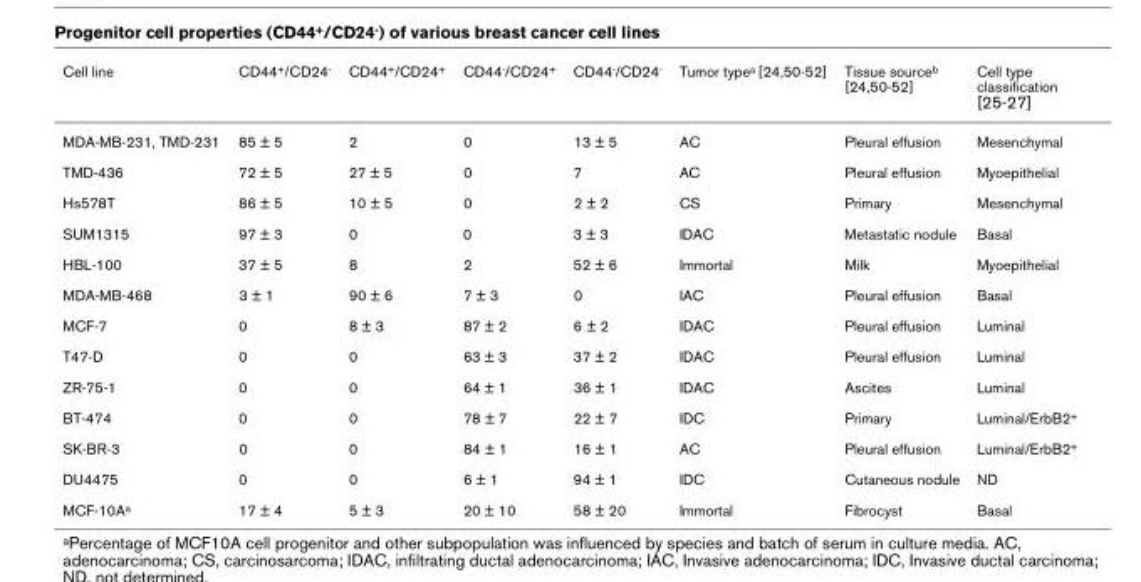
<table><thead><tr><td>Cell line</td><td>CD44+/CD24-</td><td>CD44+/CD24+</td><td>CD44-/CD24+</td><td>CD44-/CD24-</td><td>Tumor typea [24,50-52]</td><td>Tissue sourceb [24,50-52]</td><td>Cell type classification [25-27]</td></tr></thead><tbody><tr><td>MDA-MB-231, TMD-231</td><td>85 ± 5</td><td>2</td><td>0</td><td>13 ± 5</td><td>AC</td><td>Pleural effusion</td><td>Mesenchymal</td></tr><tr><td>TMD-436</td><td>72 ± 5</td><td>27 ± 5</td><td>0</td><td>7</td><td>AC</td><td>Pleural effusion</td><td>Myoepithelial</td></tr><tr><td>Hs578T</td><td>86 ± 5</td><td>10 ± 5</td><td>0</td><td>2 ± 2</td><td>CS</td><td>Primary</td><td>Mesenchymal</td></tr><tr><td>SUM1315</td><td>97 ± 3</td><td>0</td><td>0</td><td>3 ± 3</td><td>IDAC</td><td>Metastatic nodule</td><td>Basal</td></tr><tr><td>HBL-100</td><td>37 ± 5</td><td>8</td><td>2</td><td>52 ± 6</td><td>Immortal</td><td>Milk</td><td>Myoepithelial</td></tr><tr><td>MDA-MB-468</td><td>3 ± 1</td><td>90 ± 6</td><td>7 ± 3</td><td>0</td><td>IAC</td><td>Pleural effusion</td><td>Basal</td></tr><tr><td>MCF-7</td><td>0</td><td>8 ± 3</td><td>87 ± 2</td><td>6 ± 2</td><td>IDAC</td><td>Pleural effusion</td><td>Luminal</td></tr><tr><td>T47-D</td><td>0</td><td>0</td><td>63 ± 3</td><td>37 ± 2</td><td>IDAC</td><td>Pleural effusion</td><td>Luminal</td></tr><tr><td>ZR-75-1</td><td>0</td><td>0</td><td>64 ± 1</td><td>36 ± 1</td><td>IDAC</td><td>Ascites</td><td>Luminal</td></tr><tr><td>BT-474</td><td>0</td><td>0</td><td>78 ± 7</td><td>22 ± 7</td><td>IDC</td><td>Primary</td><td>Luminal/ErbB2+</td></tr><tr><td>SK-BR-3</td><td>0</td><td>0</td><td>84 ± 1</td><td>16 ± 1</td><td>AC</td><td>Pleural effusion</td><td>Luminal/ErbB2+</td></tr><tr><td>DU4475</td><td>0</td><td>0</td><td>6 ± 1</td><td>94 ± 1</td><td>IDC</td><td>Cutaneous nodule</td><td>ND</td></tr><tr><td>MCF-10Aa</td><td>17 ± 4</td><td>5 ± 3</td><td>20 ± 10</td><td>58 ± 20</td><td>Immortal</td><td>Fibrocyst</td><td>Basal</td></tr></tbody></table>